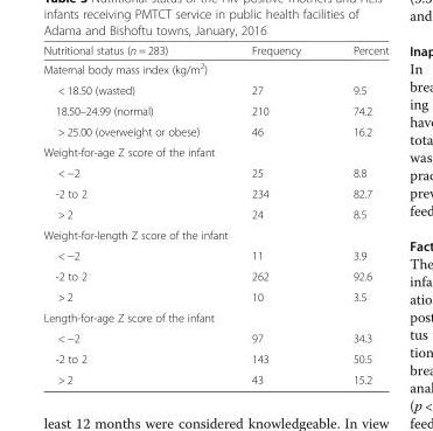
<table><thead><tr><td>Nutritional status (n = 283)</td><td>Frequency</td><td>Percent</td></tr></thead><tbody><tr><td colspan="3">Maternal body mass index (kg/m<sup>2</sup>)</td></tr><tr><td>&lt; 18.50 (wasted)</td><td>27</td><td>9.5</td></tr><tr><td>18.50–24.99 (normal)</td><td>210</td><td>74.2</td></tr><tr><td>&gt; 25.00 (overweight or obese)</td><td>46</td><td>16.2</td></tr><tr><td colspan="3">Weight-for-age Z score of the infant</td></tr><tr><td>&lt; −2</td><td>25</td><td>8.8</td></tr><tr><td>-2 to 2</td><td>234</td><td>82.7</td></tr><tr><td>&gt; 2</td><td>24</td><td>8.5</td></tr><tr><td colspan="3">Weight-for-length Z score of the infant</td></tr><tr><td>&lt; −2</td><td>11</td><td>3.9</td></tr><tr><td>-2 to 2</td><td>262</td><td>92.6</td></tr><tr><td>&gt; 2</td><td>10</td><td>3.5</td></tr><tr><td colspan="3">Length-for-age Z score of the infant</td></tr><tr><td>&lt; −2</td><td>97</td><td>34.3</td></tr><tr><td>-2 to 2</td><td>143</td><td>50.5</td></tr><tr><td>&gt; 2</td><td>43</td><td>15.2</td></tr></tbody></table>